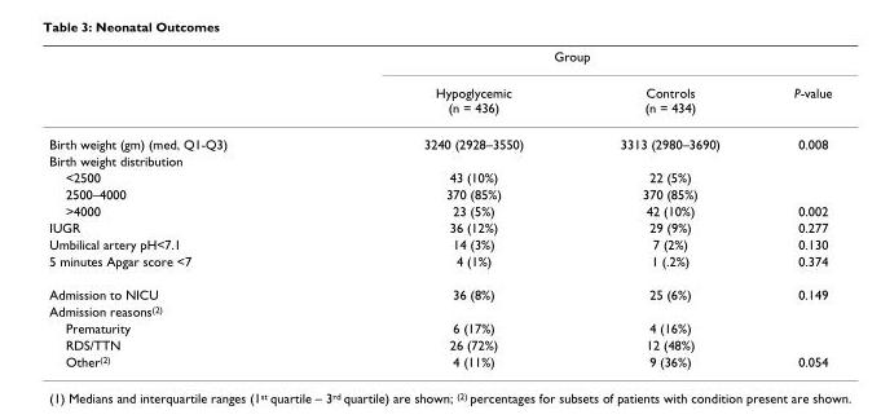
<table><thead><tr><td rowspan="2"></td><td colspan="2">Group</td><td rowspan="2">P-value</td></tr><tr><td>Hypoglycemic (n = 436)</td><td>Controls (n = 434)</td></tr></thead><tbody><tr><td>Birth weight (gm) (med, Q1-Q3)</td><td>3240 (2928–3550)</td><td>3313 (2980–3690)</td><td>0.008</td></tr><tr><td colspan="4">Birth weight distribution</td></tr><tr><td>&lt;2500</td><td>43 (10%)</td><td>22 (5%)</td><td></td></tr><tr><td>2500–4000</td><td>370 (85%)</td><td>370 (85%)</td><td></td></tr><tr><td>&gt;4000</td><td>23 (5%)</td><td>42 (10%)</td><td>0.002</td></tr><tr><td>IUGR</td><td>36 (12%)</td><td>29 (9%)</td><td>0.277</td></tr><tr><td>Umbilical artery pH&lt;7.1</td><td>14 (3%)</td><td>7 (2%)</td><td>0.130</td></tr><tr><td>5 minutes Apgar score &lt;7</td><td>4 (1%)</td><td>1 (.2%)</td><td>0.374</td></tr><tr><td>Admission to NICU</td><td>36 (8%)</td><td>25 (6%)</td><td>0.149</td></tr><tr><td colspan="4">Admission reasons<sup>(2)</sup></td></tr><tr><td>Prematurity</td><td>6 (17%)</td><td>4 (16%)</td><td></td></tr><tr><td>RDS/TTN</td><td>26 (72%)</td><td>12 (48%)</td><td></td></tr><tr><td>Other<sup>(2)</sup></td><td>4 (11%)</td><td>9 (36%)</td><td>0.054</td></tr></tbody></table>